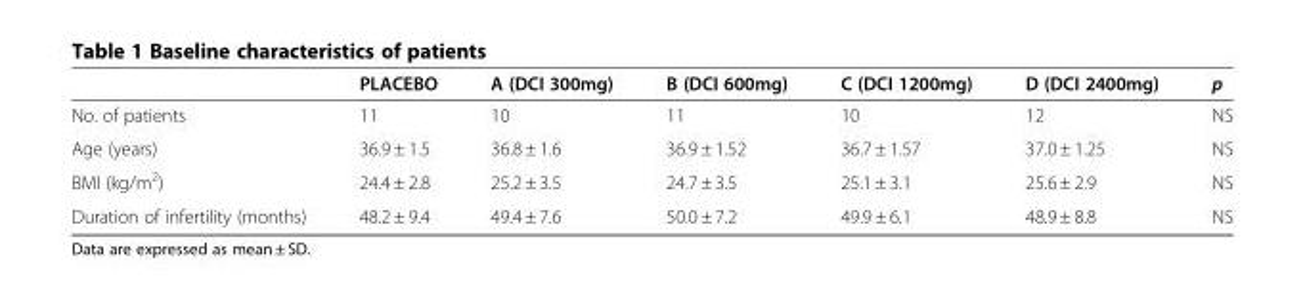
<table><thead><tr><td></td><td>PLACEBO</td><td>A (DCI 300mg)</td><td>B (DCI 600mg)</td><td>C (DCI 1200mg)</td><td>D (DCI 2400mg)</td><td>p</td></tr></thead><tbody><tr><td>No. of patients</td><td>11</td><td>10</td><td>11</td><td>10</td><td>12</td><td>NS</td></tr><tr><td>Age (years)</td><td>36.9 ± 1.5</td><td>36.8 ± 1.6</td><td>36.9 ± 1.52</td><td>36.7 ± 1.57</td><td>37.0 ± 1.25</td><td>NS</td></tr><tr><td>BMI (kg/m<sup>2</sup>)</td><td>24.4 ± 2.8</td><td>25.2 ± 3.5</td><td>24.7 ± 3.5</td><td>25.1 ± 3.1</td><td>25.6 ± 2.9</td><td>NS</td></tr><tr><td>Duration of infertility (months)</td><td>48.2 ± 9.4</td><td>49.4 ± 7.6</td><td>50.0 ± 7.2</td><td>49.9 ± 6.1</td><td>48.9 ± 8.8</td><td>NS</td></tr></tbody></table>